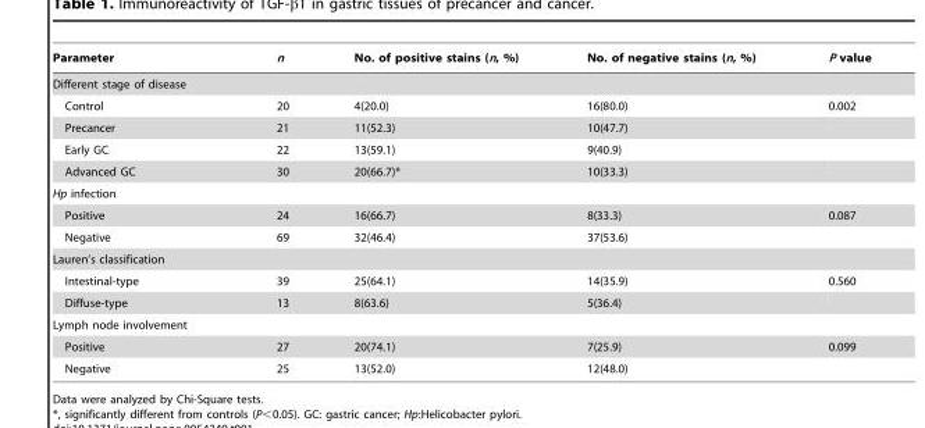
<table><thead><tr><td>Parameter</td><td>n</td><td>No. of positive stains (n, %)</td><td>No. of negative stains (n, %)</td><td>P value</td></tr></thead><tbody><tr><td colspan="5">Different stage of disease</td></tr><tr><td>Control</td><td>20</td><td>4(20.0)</td><td>16(80.0)</td><td>0.002</td></tr><tr><td>Precancer</td><td>21</td><td>11(52.3)</td><td>10(47.7)</td><td></td></tr><tr><td>Early GC</td><td>22</td><td>13(59.1)</td><td>9(40.9)</td><td></td></tr><tr><td>Advanced GC</td><td>30</td><td>20(66.7)*</td><td>10(33.3)</td><td></td></tr><tr><td colspan="5">Hp infection</td></tr><tr><td>Positive</td><td>24</td><td>16(66.7)</td><td>8(33.3)</td><td>0.087</td></tr><tr><td>Negative</td><td>69</td><td>32(46.4)</td><td>37(53.6)</td><td></td></tr><tr><td colspan="5">Lauren’s classification</td></tr><tr><td>Intestinal-type</td><td>39</td><td>25(64.1)</td><td>14(35.9)</td><td>0.560</td></tr><tr><td>Diffuse-type</td><td>13</td><td>8(63.6)</td><td>5(36.4)</td><td></td></tr><tr><td colspan="5">Lymph node involvement</td></tr><tr><td>Positive</td><td>27</td><td>20(74.1)</td><td>7(25.9)</td><td>0.099</td></tr><tr><td>Negative</td><td>25</td><td>13(52.0)</td><td>12(48.0)</td><td></td></tr></tbody></table>